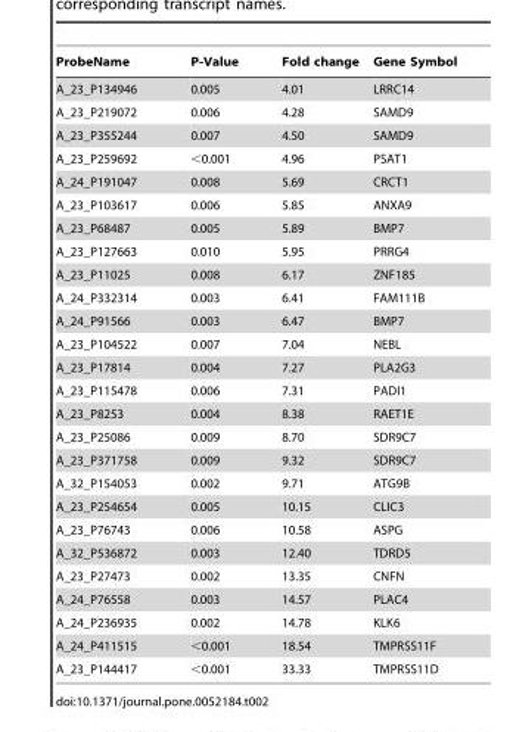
<table><thead><tr><td>ProbeName</td><td>P-Value</td><td>Fold change</td><td>Gene Symbol</td></tr></thead><tbody><tr><td>A_23_P134946</td><td>0.005</td><td>4.01</td><td>LRRC14</td></tr><tr><td>A_23_P219072</td><td>0.006</td><td>4.28</td><td>SAMD9</td></tr><tr><td>A_23_P355244</td><td>0.007</td><td>4.50</td><td>SAMD9</td></tr><tr><td>A_23_P259692</td><td>&lt;0.001</td><td>4.96</td><td>PSAT1</td></tr><tr><td>A_24_P191047</td><td>0.008</td><td>5.69</td><td>CRCT1</td></tr><tr><td>A_23_P103617</td><td>0.006</td><td>5.85</td><td>ANXA9</td></tr><tr><td>A_23_P68487</td><td>0.005</td><td>5.89</td><td>BMP7</td></tr><tr><td>A_23_P127663</td><td>0.010</td><td>5.95</td><td>PRRG4</td></tr><tr><td>A_23_P11025</td><td>0.008</td><td>6.17</td><td>ZNF185</td></tr><tr><td>A_24_P332314</td><td>0.003</td><td>6.41</td><td>FAM111B</td></tr><tr><td>A_24_P91566</td><td>0.003</td><td>6.47</td><td>BMP7</td></tr><tr><td>A_23_P104522</td><td>0.007</td><td>7.04</td><td>NEBL</td></tr><tr><td>A_23_P17814</td><td>0.004</td><td>7.27</td><td>PLA2G3</td></tr><tr><td>A_23_P115478</td><td>0.006</td><td>7.31</td><td>PADI1</td></tr><tr><td>A_23_P8253</td><td>0.004</td><td>8.38</td><td>RAET1E</td></tr><tr><td>A_23_P25086</td><td>0.009</td><td>8.70</td><td>SDR9C7</td></tr><tr><td>A_23_P371758</td><td>0.009</td><td>9.32</td><td>SDR9C7</td></tr><tr><td>A_32_P154053</td><td>0.002</td><td>9.71</td><td>ATG9B</td></tr><tr><td>A_23_P254654</td><td>0.005</td><td>10.15</td><td>CLIC3</td></tr><tr><td>A_23_P76743</td><td>0.006</td><td>10.58</td><td>ASPG</td></tr><tr><td>A_32_P536872</td><td>0.003</td><td>12.40</td><td>TDRD5</td></tr><tr><td>A_23_P27473</td><td>0.002</td><td>13.35</td><td>CNFN</td></tr><tr><td>A_24_P76558</td><td>0.003</td><td>14.57</td><td>PLAC4</td></tr><tr><td>A_24_P236935</td><td>0.002</td><td>14.78</td><td>KLK6</td></tr><tr><td>A_24_P411515</td><td>&lt;0.001</td><td>18.54</td><td>TMPRSS11F</td></tr><tr><td>A_23_P144417</td><td>&lt;0.001</td><td>33.33</td><td>TMPRSS11D</td></tr></tbody></table>